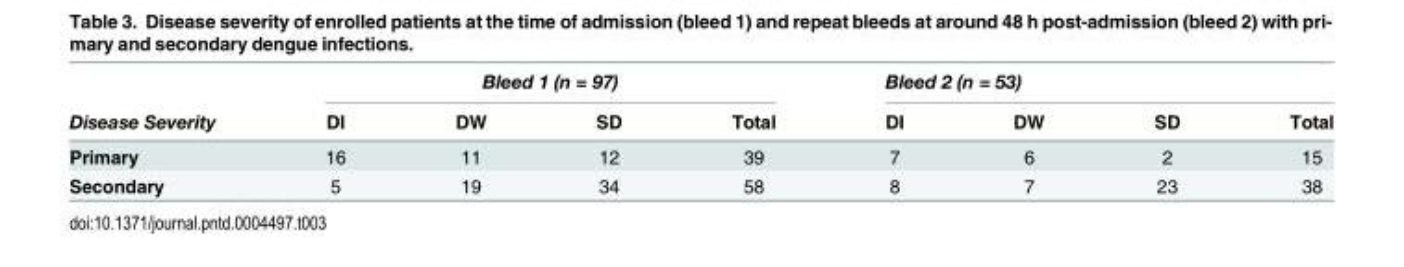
<table><thead><tr><td rowspan="2">Disease Severity</td><td colspan="4">Bleed 1 (n = 97)</td><td colspan="4">Bleed 2 (n = 53)</td></tr><tr><td>DI</td><td>DW</td><td>SD</td><td>Total</td><td>DI</td><td>DW</td><td>SD</td><td>Total</td></tr></thead><tbody><tr><td>Primary</td><td>16</td><td>11</td><td>12</td><td>39</td><td>7</td><td>6</td><td>2</td><td>15</td></tr><tr><td>Secondary</td><td>5</td><td>19</td><td>34</td><td>58</td><td>8</td><td>7</td><td>23</td><td>38</td></tr></tbody></table>